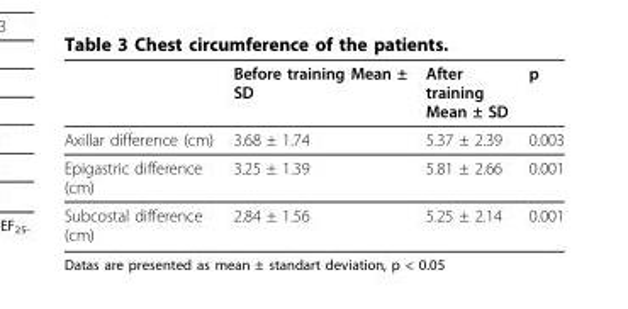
<table><thead><tr><td></td><td>Before training Mean ± SD</td><td>After training Mean ± SD</td><td>p</td></tr></thead><tbody><tr><td>Axillar difference (cm)</td><td>3.68 ± 1.74</td><td>5.37 ± 2.39</td><td>0.003</td></tr><tr><td>Epigastric difference (cm)</td><td>3.25 ± 1.39</td><td>5.81 ± 2.66</td><td>0.001</td></tr><tr><td>Subcostal difference (cm)</td><td>2.84 ± 1.56</td><td>5.25 ± 2.14</td><td>0.001</td></tr></tbody></table>